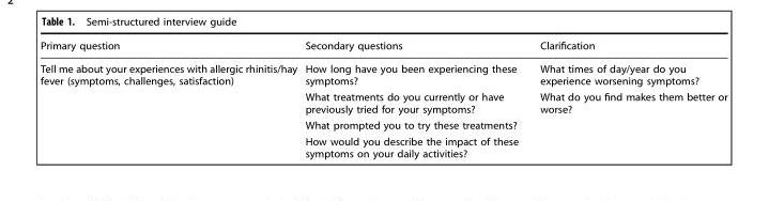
<table><thead><tr><td>Primary question</td><td>Secondary questions</td><td>Clarification</td></tr></thead><tbody><tr><td rowspan="4">Tell me about your experiences with allergic rhinitis/hay fever (symptoms, challenges, satisfaction)</td><td>How long have you been experiencing these symptoms?</td><td>What times of day/year do you experience worsening symptoms?</td></tr><tr><td>What treatments do you currently or have previously tried for your symptoms?</td><td>What do you find makes them better or worse?</td></tr><tr><td>What prompted you to try these treatments?</td><td></td></tr><tr><td>How would you describe the impact of these symptoms on your daily activities?</td><td></td></tr></tbody></table>